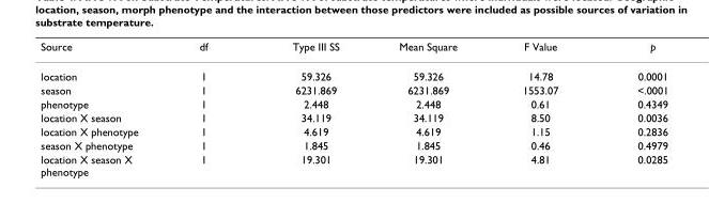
<table><thead><tr><td>Source</td><td>df</td><td>Type III SS</td><td>Mean Square</td><td>F Value</td><td>p</td></tr></thead><tbody><tr><td>location</td><td>1</td><td>59.326</td><td>59.326</td><td>14.78</td><td>0.0001</td></tr><tr><td>season</td><td>1</td><td>6231.869</td><td>6231.869</td><td>1553.07</td><td>&lt;.0001</td></tr><tr><td>phenotype</td><td>1</td><td>2.448</td><td>2.448</td><td>0.61</td><td>0.4349</td></tr><tr><td>location X season</td><td>1</td><td>34.119</td><td>34.119</td><td>8.50</td><td>0.0036</td></tr><tr><td>location X phenotype</td><td>1</td><td>4.619</td><td>4.619</td><td>1.15</td><td>0.2836</td></tr><tr><td>season X phenotype</td><td>1</td><td>1.845</td><td>1.845</td><td>0.46</td><td>0.4979</td></tr><tr><td>location X season X phenotype</td><td>1</td><td>19.301</td><td>19.301</td><td>4.81</td><td>0.0285</td></tr></tbody></table>